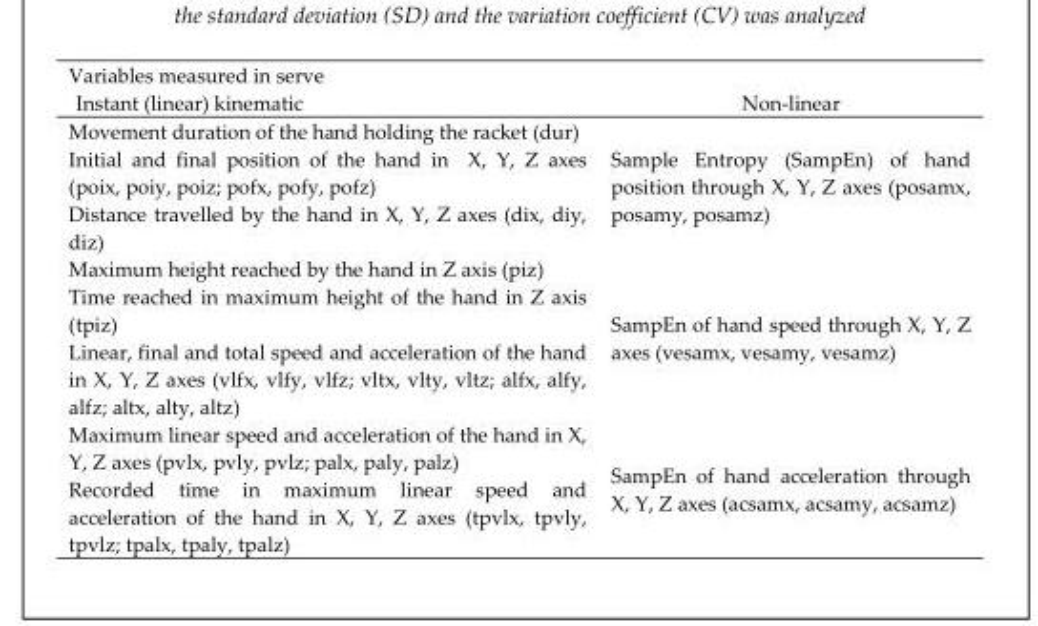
<table><thead><tr><td>Variables measured in serve Instant (linear) kinematic</td><td>Non-linear</td></tr></thead><tbody><tr><td>Movement duration of the hand holding the racket (dur)</td><td rowspan="3">Sample Entropy (SampEn) of hand position through X, Y, Z axes (posamx, posamy, posamz)</td></tr><tr><td>Initial and final position of the hand in X, Y, Z axes (poix, poiy, poiz; pofx, pofy, pofz)</td></tr><tr><td>Distance travelled by the hand in X, Y, Z axes (dix, diy, diz)</td></tr><tr><td>Maximum height reached by the hand in Z axis (piz)</td><td rowspan="3">SampEn of hand speed through X, Y, Z axes (vesamx, vesamy, vesamz)</td></tr><tr><td>Time reached in maximum height of the hand in Z axis (tpiz)</td></tr><tr><td>Linear, final and total speed and acceleration of the hand in X, Y, Z axes (vlfx, vlfy, vlfz; vltx, vlty, vltz; alfx, alfy, alfz; altx, alty, altz)</td></tr><tr><td>Maximum linear speed and acceleration of the hand in X, Y, Z axes (pvlx, pvly, pvlz; palx, paly, palz)</td><td rowspan="2">SampEn of hand acceleration through X, Y, Z axes (acsamx, acsamy, acsamz)</td></tr><tr><td>Recorded time in maximum linear speed and acceleration of the hand in X, Y, Z axes (tpvlx, tpvly, tpvlz; tpalx, tpaly, tpalz)</td></tr></tbody></table>